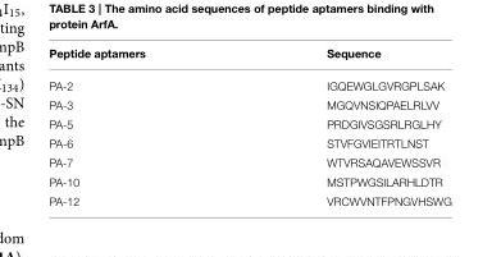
<table><thead><tr><td>Peptide aptamers</td><td>Sequence</td></tr></thead><tbody><tr><td>PA-2</td><td>IGQEWGLGVRGPLSAK</td></tr><tr><td>PA-3</td><td>MGQVNSIQPAELRLVV</td></tr><tr><td>PA-5</td><td>PRDGIVSGSRLRGLHY</td></tr><tr><td>PA-6</td><td>STVFGVIEITRTLNST</td></tr><tr><td>PA-7</td><td>WTVRSAQAVEWSSVR</td></tr><tr><td>PA-10</td><td>MSTPWGSILARHLDTR</td></tr><tr><td>PA-12</td><td>VRCWVNTFPNGVHSWG</td></tr></tbody></table>